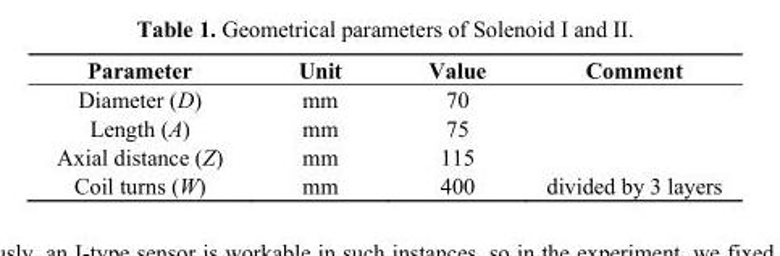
<table><thead><tr><td>Parameter</td><td>Unit</td><td>Value</td><td>Comment</td></tr></thead><tbody><tr><td>Diameter (D)</td><td>mm</td><td>70</td><td></td></tr><tr><td>Length (A)</td><td>mm</td><td>75</td><td></td></tr><tr><td>Axial distance (Z)</td><td>mm</td><td>115</td><td></td></tr><tr><td>Coil turns (W)</td><td>mm</td><td>400</td><td>divided by 3 layers</td></tr></tbody></table>